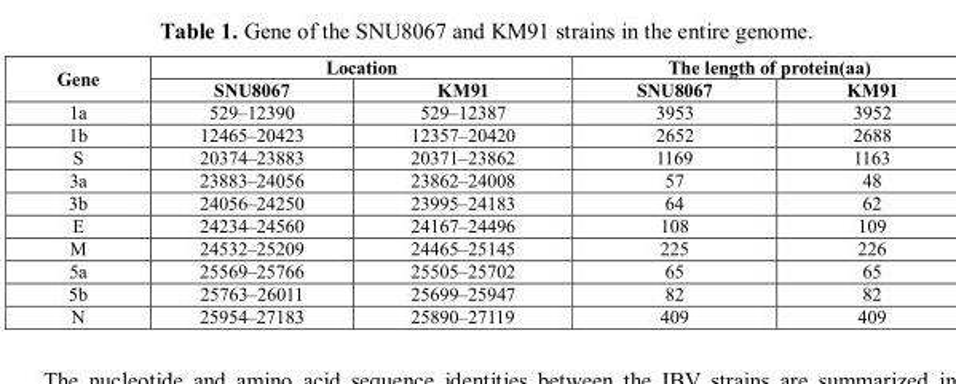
<table><thead><tr><td rowspan="2">Gene</td><td colspan="2">Location</td><td colspan="2">The length of protein(aa)</td></tr><tr><td>SNU8067</td><td>KM91</td><td>SNU8067</td><td>KM91</td></tr></thead><tbody><tr><td>1a</td><td>529–12390</td><td>529–12387</td><td>3953</td><td>3952</td></tr><tr><td>1b</td><td>12465–20423</td><td>12357–20420</td><td>2652</td><td>2688</td></tr><tr><td>S</td><td>20374–23883</td><td>20371–23862</td><td>1169</td><td>1163</td></tr><tr><td>3a</td><td>23883–24056</td><td>23862–24008</td><td>57</td><td>48</td></tr><tr><td>3b</td><td>24056–24250</td><td>23995–24183</td><td>64</td><td>62</td></tr><tr><td>E</td><td>24234–24560</td><td>24167–24496</td><td>108</td><td>109</td></tr><tr><td>M</td><td>24532–25209</td><td>24465–25145</td><td>225</td><td>226</td></tr><tr><td>5a</td><td>25569–25766</td><td>25505–25702</td><td>65</td><td>65</td></tr><tr><td>5b</td><td>25763–26011</td><td>25699–25947</td><td>82</td><td>82</td></tr><tr><td>N</td><td>25954–27183</td><td>25890–27119</td><td>409</td><td>409</td></tr></tbody></table>